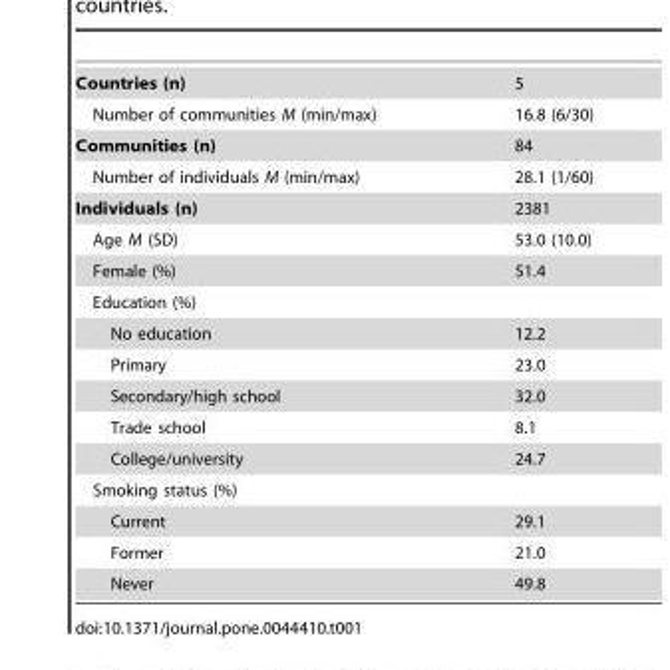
<table><tbody><tr><td>Countries (n)</td><td>5</td></tr><tr><td>Number of communities M (min/max)</td><td>16.8 (6/30)</td></tr><tr><td>Communities (n)</td><td>84</td></tr><tr><td>Number of individuals M (min/max)</td><td>28.1 (1/60)</td></tr><tr><td>Individuals (n)</td><td>2381</td></tr><tr><td>Age M (SD)</td><td>53.0 (10.0)</td></tr><tr><td>Female (%)</td><td>51.4</td></tr><tr><td colspan="2">Education (%)</td></tr><tr><td>No education</td><td>12.2</td></tr><tr><td>Primary</td><td>23.0</td></tr><tr><td>Secondary/high school</td><td>32.0</td></tr><tr><td>Trade school</td><td>8.1</td></tr><tr><td>College/university</td><td>24.7</td></tr><tr><td colspan="2">Smoking status (%)</td></tr><tr><td>Current</td><td>29.1</td></tr><tr><td>Former</td><td>21.0</td></tr><tr><td>Never</td><td>49.8</td></tr></tbody></table>